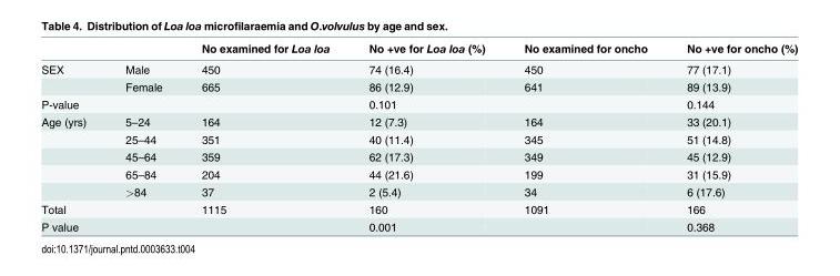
<table><thead><tr><td></td><td></td><td>No examined for Loa loa</td><td>No +ve for Loa loa (%)</td><td>No examined for oncho</td><td>No +ve for oncho (%)</td></tr></thead><tbody><tr><td rowspan="2">SEX</td><td>Male</td><td>450</td><td>74 (16.4)</td><td>450</td><td>77 (17.1)</td></tr><tr><td>Female</td><td>665</td><td>86 (12.9)</td><td>641</td><td>89 (13.9)</td></tr><tr><td>P-value</td><td></td><td></td><td>0.101</td><td></td><td>0.144</td></tr><tr><td rowspan="5">Age (yrs)</td><td>5–24</td><td>164</td><td>12 (7.3)</td><td>164</td><td>33 (20.1)</td></tr><tr><td>25–44</td><td>351</td><td>40 (11.4)</td><td>345</td><td>51 (14.8)</td></tr><tr><td>45–64</td><td>359</td><td>62 (17.3)</td><td>349</td><td>45 (12.9)</td></tr><tr><td>65–84</td><td>204</td><td>44 (21.6)</td><td>199</td><td>31 (15.9)</td></tr><tr><td>&gt;84</td><td>37</td><td>2 (5.4)</td><td>34</td><td>6 (17.6)</td></tr><tr><td>Total</td><td></td><td>1115</td><td>160</td><td>1091</td><td>166</td></tr><tr><td>P value</td><td></td><td></td><td>0.001</td><td></td><td>0.368</td></tr></tbody></table>